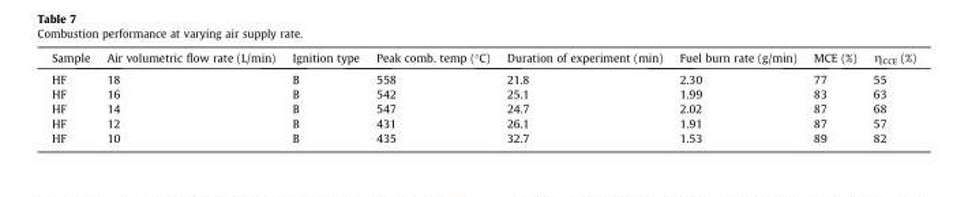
<table><thead><tr><td>Sample</td><td>Air volumetric flow rate (L/min)</td><td>Ignition type</td><td>Peak comb. temp (°C)</td><td>Duration of experiment (min)</td><td>Fuel burn rate (g/min)</td><td>MCE (%)</td><td>η<sub>CCE</sub> (%)</td></tr></thead><tbody><tr><td>HF</td><td>18</td><td>B</td><td>558</td><td>21.8</td><td>2.30</td><td>77</td><td>55</td></tr><tr><td>HF</td><td>16</td><td>B</td><td>542</td><td>25.1</td><td>1.99</td><td>83</td><td>63</td></tr><tr><td>HF</td><td>14</td><td>B</td><td>547</td><td>24.7</td><td>2.02</td><td>87</td><td>68</td></tr><tr><td>HF</td><td>12</td><td>B</td><td>431</td><td>26.1</td><td>1.91</td><td>87</td><td>57</td></tr><tr><td>HF</td><td>10</td><td>B</td><td>435</td><td>32.7</td><td>1.53</td><td>89</td><td>82</td></tr></tbody></table>